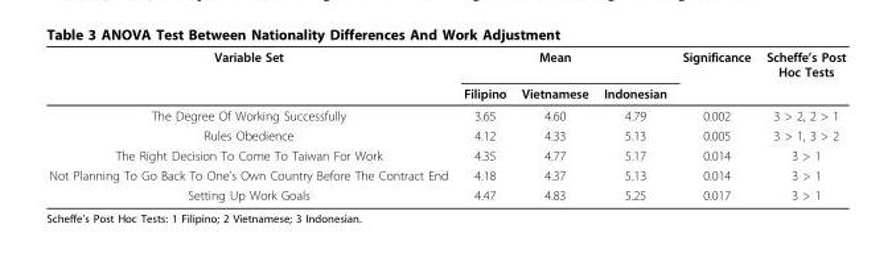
<table><thead><tr><td rowspan="2">Variable Set</td><td rowspan="2">Filipino</td><td rowspan="2">Mean Vietnamese</td><td rowspan="2">Indonesian</td><td rowspan="2">Significance</td><td rowspan="2">Scheffe’s Post Hoc Tests</td></tr><tr></tr></thead><tbody><tr><td>The Degree Of Working Successfully</td><td>3.65</td><td>4.60</td><td>4.79</td><td>0.002</td><td>3 &gt; 2, 2 &gt; 1</td></tr><tr><td>Rules Obedience</td><td>4.12</td><td>4.33</td><td>5.13</td><td>0.005</td><td>3 &gt; 1, 3 &gt; 2</td></tr><tr><td>The Right Decision To Come To Taiwan For Work</td><td>4.35</td><td>4.77</td><td>5.17</td><td>0.014</td><td>3 &gt; 1</td></tr><tr><td>Not Planning To Go Back To One’s Own Country Before The Contract End</td><td>4.18</td><td>4.37</td><td>5.13</td><td>0.014</td><td>3 &gt; 1</td></tr><tr><td>Setting Up Work Goals</td><td>4.47</td><td>4.83</td><td>5.25</td><td>0.017</td><td>3 &gt; 1</td></tr></tbody></table>